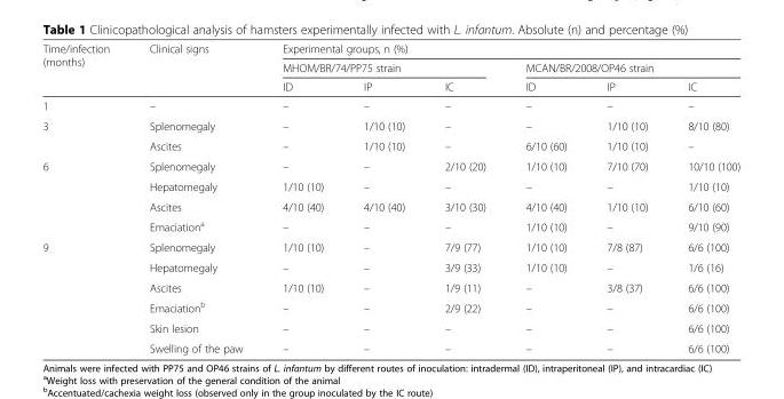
<table><thead><tr><td rowspan="3">Time/infection (months)</td><td rowspan="3">Clinical signs</td><td colspan="6">Experimental groups, n (%)</td></tr><tr><td colspan="3">MHOM/BR/74/PP75 strain</td><td colspan="3">MCAN/BR/2008/OP46 strain</td></tr><tr><td>ID</td><td>IP</td><td>IC</td><td>ID</td><td>IP</td><td>IC</td></tr></thead><tbody><tr><td>1</td><td>–</td><td>–</td><td>–</td><td>–</td><td>–</td><td>–</td><td>–</td></tr><tr><td rowspan="2">3</td><td>Splenomegaly</td><td>–</td><td>1/10 (10)</td><td>–</td><td>–</td><td>1/10 (10)</td><td>8/10 (80)</td></tr><tr><td>Ascites</td><td>–</td><td>1/10 (10)</td><td>–</td><td>6/10 (60)</td><td>1/10 (10)</td><td>–</td></tr><tr><td rowspan="4">6</td><td>Splenomegaly</td><td>–</td><td>–</td><td>2/10 (20)</td><td>1/10 (10)</td><td>7/10 (70)</td><td>10/10 (100)</td></tr><tr><td>Hepatomegaly</td><td>1/10 (10)</td><td>–</td><td>–</td><td>–</td><td>–</td><td>1/10 (10)</td></tr><tr><td>Ascites</td><td>4/10 (40)</td><td>4/10 (40)</td><td>3/10 (30)</td><td>4/10 (40)</td><td>1/10 (10)</td><td>6/10 (60)</td></tr><tr><td>Emaciation<sup>a</sup></td><td>–</td><td>–</td><td>–</td><td>1/10 (10)</td><td>–</td><td>9/10 (90)</td></tr><tr><td rowspan="6">9</td><td>Splenomegaly</td><td>1/10 (10)</td><td>–</td><td>7/9 (77)</td><td>1/10 (10)</td><td>7/8 (87)</td><td>6/6 (100)</td></tr><tr><td>Hepatomegaly</td><td>–</td><td>–</td><td>3/9 (33)</td><td>1/10 (10)</td><td>–</td><td>1/6 (16)</td></tr><tr><td>Ascites</td><td>1/10 (10)</td><td>–</td><td>1/9 (11)</td><td>–</td><td>3/8 (37)</td><td>6/6 (100)</td></tr><tr><td>Emaciation<sup>b</sup></td><td>–</td><td>–</td><td>2/9 (22)</td><td>–</td><td>–</td><td>6/6 (100)</td></tr><tr><td>Skin lesion</td><td>–</td><td>–</td><td>–</td><td>–</td><td>–</td><td>6/6 (100)</td></tr><tr><td>Swelling of the paw</td><td>–</td><td>–</td><td>–</td><td>–</td><td>–</td><td>6/6 (100)</td></tr></tbody></table>